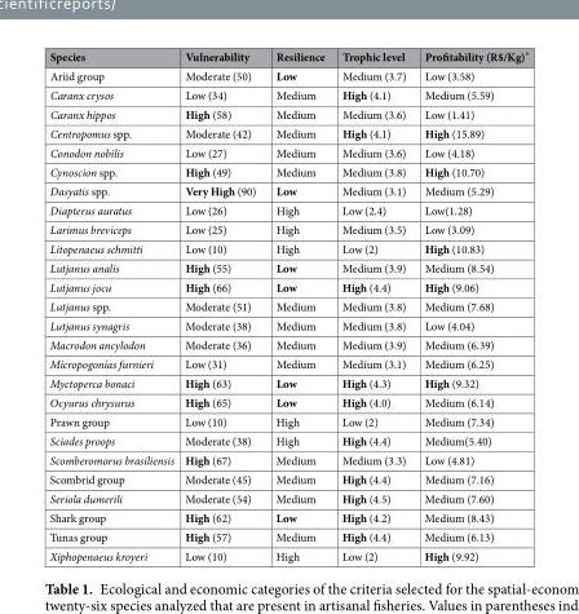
<table><thead><tr><td>Species</td><td>Vulnerability</td><td>Resilience</td><td>Trophic level</td><td>Profitability (R$/Kg)*</td></tr></thead><tbody><tr><td>Ariid group</td><td>Moderate (50)</td><td>Low</td><td>Medium (3.7)</td><td>Low (3.58)</td></tr><tr><td>Caranx crysos</td><td>Low (34)</td><td>Medium</td><td>High (4.1)</td><td>Medium (5.59)</td></tr><tr><td>Caranx hippos</td><td>High (58)</td><td>Medium</td><td>Medium (3.6)</td><td>Low (1.41)</td></tr><tr><td>Centropomus spp.</td><td>Moderate (42)</td><td>Medium</td><td>High (4.1)</td><td>High (15.89)</td></tr><tr><td>Conodon nobilis</td><td>Low (27)</td><td>Medium</td><td>Medium (3.6)</td><td>Low (4.18)</td></tr><tr><td>Cynoscion spp.</td><td>High (49)</td><td>Medium</td><td>Medium (3.8)</td><td>High (10.70)</td></tr><tr><td>Dasyatis spp.</td><td>Very High (90)</td><td>Low</td><td>Medium (3.1)</td><td>Medium (5.29)</td></tr><tr><td>Diapterus auratus</td><td>Low (26)</td><td>High</td><td>Low (2.4)</td><td>Low(1.28)</td></tr><tr><td>Larimus breviceps</td><td>Low (25)</td><td>High</td><td>Medium (3.5)</td><td>Low (3.09)</td></tr><tr><td>Litopenaeus schmitti</td><td>Low (10)</td><td>High</td><td>Low (2)</td><td>High (10.83)</td></tr><tr><td>Lutjanus analis</td><td>High (55)</td><td>Low</td><td>Medium (3.9)</td><td>Medium (8.54)</td></tr><tr><td>Lutjanus jocu</td><td>High (66)</td><td>Low</td><td>High (4.4)</td><td>High (9.06)</td></tr><tr><td>Lutjanus spp.</td><td>Moderate (51)</td><td>Medium</td><td>Medium (3.8)</td><td>Medium (7.68)</td></tr><tr><td>Lutjanus synagris</td><td>Moderate (38)</td><td>Medium</td><td>Medium (3.8)</td><td>Low (4.04)</td></tr><tr><td>Macrodon ancylodon</td><td>Moderate (36)</td><td>Medium</td><td>Medium (3.9)</td><td>Medium (6.39)</td></tr><tr><td>Micropogonias furnieri</td><td>Low (31)</td><td>Medium</td><td>Medium (3.1)</td><td>Medium (6.25)</td></tr><tr><td>Myctoperca bonaci</td><td>High (63)</td><td>Low</td><td>High (4.3)</td><td>High (9.32)</td></tr><tr><td>Ocyurus chrysurus</td><td>High (65)</td><td>Low</td><td>High (4.0)</td><td>Medium (6.14)</td></tr><tr><td>Prawn group</td><td>Low (10)</td><td>High</td><td>Low (2)</td><td>Medium (7.34)</td></tr><tr><td>Sciades proops</td><td>Moderate (38)</td><td>High</td><td>High (4.4)</td><td>Medium(5.40)</td></tr><tr><td>Scomberomorus brasiliensis</td><td>High (67)</td><td>Medium</td><td>Medium (3.3)</td><td>Low (4.81)</td></tr><tr><td>Scombrid group</td><td>Moderate (45)</td><td>Medium</td><td>High (4.4)</td><td>Medium (7.16)</td></tr><tr><td>Seriola dumerili</td><td>Moderate (54)</td><td>Medium</td><td>High (4.5)</td><td>Medium (7.60)</td></tr><tr><td>Shark group</td><td>High (62)</td><td>Low</td><td>High (4.2)</td><td>Medium (8.43)</td></tr><tr><td>Tunas group</td><td>High (57)</td><td>Medium</td><td>High (4.4)</td><td>Medium (6.13)</td></tr><tr><td>Xiphopenaeus kroyeri</td><td>Low (10)</td><td>High</td><td>Low (2)</td><td>High (9.92)</td></tr></tbody></table>